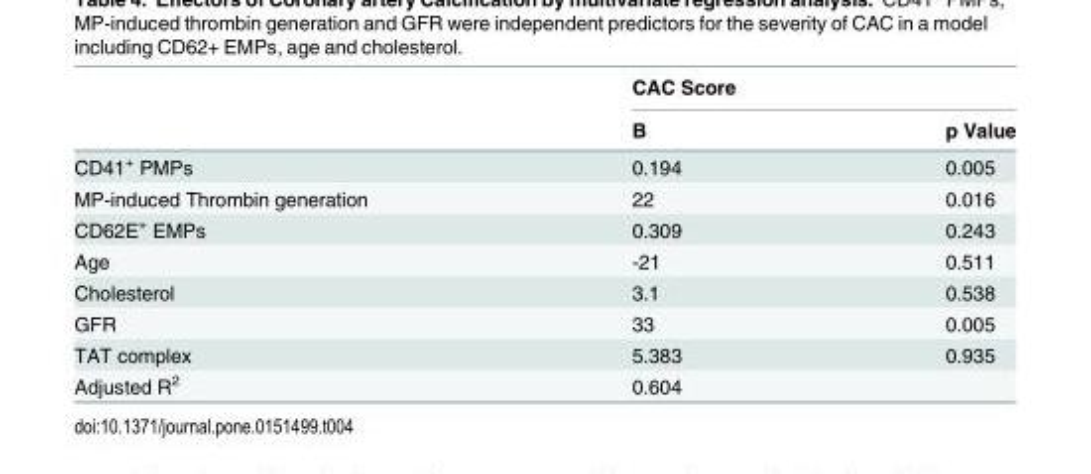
<table><thead><tr><td rowspan="2"></td><td colspan="2">CAC Score</td></tr><tr><td>B</td><td>p Value</td></tr></thead><tbody><tr><td>CD41<sup>+</sup> PMPs</td><td>0.194</td><td>0.005</td></tr><tr><td>MP-induced Thrombin generation</td><td>22</td><td>0.016</td></tr><tr><td>CD62E<sup>+</sup> EMPs</td><td>0.309</td><td>0.243</td></tr><tr><td>Age</td><td>-21</td><td>0.511</td></tr><tr><td>Cholesterol</td><td>3.1</td><td>0.538</td></tr><tr><td>GFR</td><td>33</td><td>0.005</td></tr><tr><td>TAT complex</td><td>5.383</td><td>0.935</td></tr><tr><td>Adjusted R<sup>2</sup></td><td>0.604</td><td></td></tr></tbody></table>